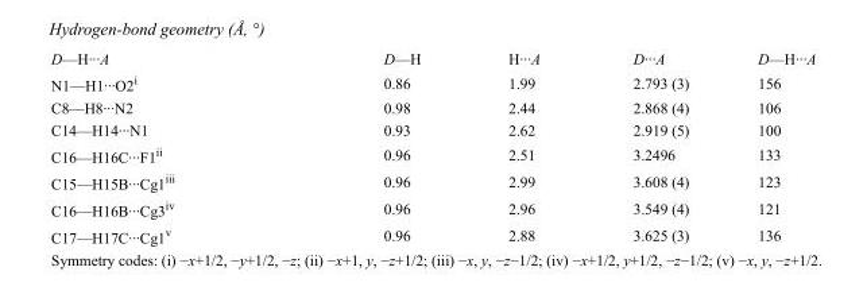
<table><tbody><tr><td>D—H···A</td><td>D—H</td><td>H···A</td><td>D···A</td><td>D—H···A</td></tr><tr><td>N1—H1···O2<sup>i</sup></td><td>0.86</td><td>1.99</td><td>2.793 (3)</td><td>156</td></tr><tr><td>C8—H8···N2</td><td>0.98</td><td>2.44</td><td>2.868 (4)</td><td>106</td></tr><tr><td>C14—H14···N1</td><td>0.93</td><td>2.62</td><td>2.919 (5)</td><td>100</td></tr><tr><td>C16—H16C···F1<sup>ii</sup></td><td>0.96</td><td>2.51</td><td>3.2496</td><td>133</td></tr><tr><td>C15—H15B···Cg1<sup>iii</sup></td><td>0.96</td><td>2.99</td><td>3.608 (4)</td><td>123</td></tr><tr><td>C16—H16B···Cg3<sup>iv</sup></td><td>0.96</td><td>2.96</td><td>3.549 (4)</td><td>121</td></tr><tr><td>C17—H17C···Cg1<sup>v</sup></td><td>0.96</td><td>2.88</td><td>3.625 (3)</td><td>136</td></tr></tbody></table>